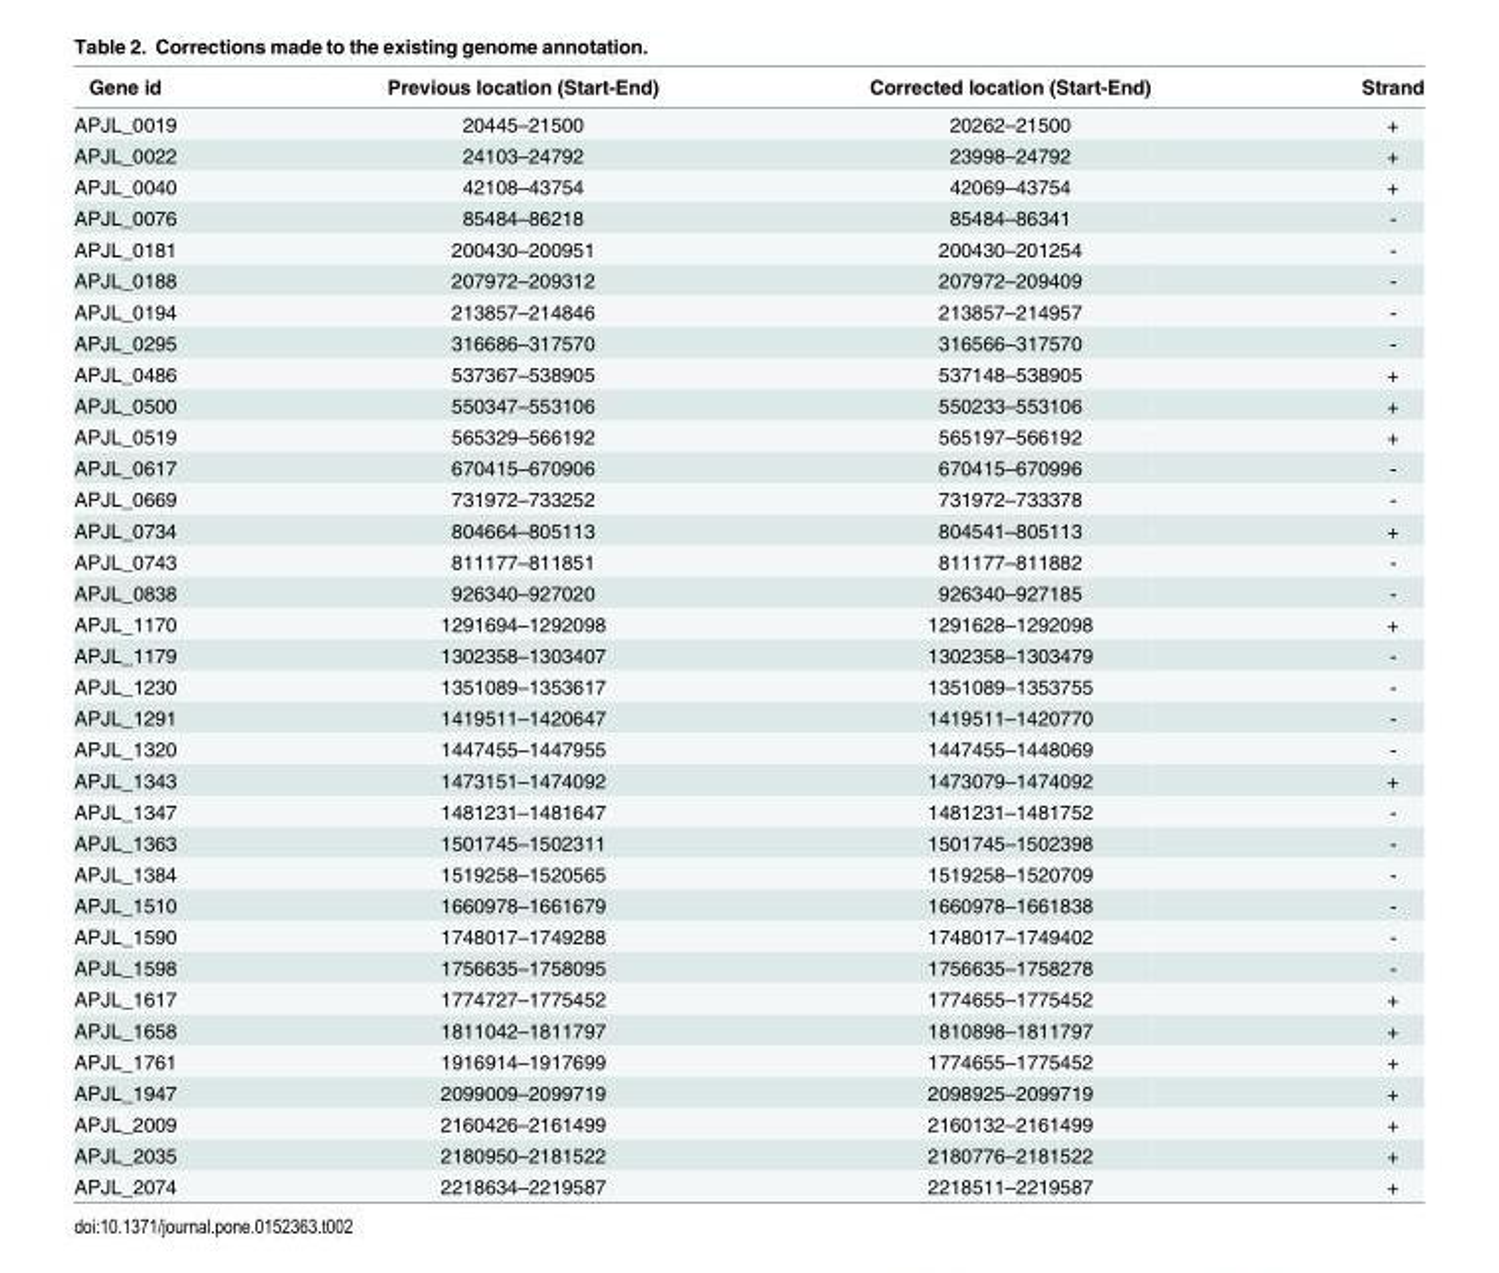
<table><thead><tr><td>Gene id</td><td>Previous location (Start-End)</td><td>Corrected location (Start-End)</td><td>Strand</td></tr></thead><tbody><tr><td>APJL_0019</td><td>20445–21500</td><td>20262–21500</td><td>+</td></tr><tr><td>APJL_0022</td><td>24103–24792</td><td>23998–24792</td><td>+</td></tr><tr><td>APJL_0040</td><td>42108–43754</td><td>42069–43754</td><td>+</td></tr><tr><td>APJL_0076</td><td>85484–86218</td><td>85484–86341</td><td>-</td></tr><tr><td>APJL_0181</td><td>200430–200951</td><td>200430–201254</td><td>-</td></tr><tr><td>APJL_0188</td><td>207972–209312</td><td>207972–209409</td><td>-</td></tr><tr><td>APJL_0194</td><td>213857–214846</td><td>213857–214957</td><td>-</td></tr><tr><td>APJL_0295</td><td>316686–317570</td><td>316566–317570</td><td>-</td></tr><tr><td>APJL_0486</td><td>537367–538905</td><td>537148–538905</td><td>+</td></tr><tr><td>APJL_0500</td><td>550347–553106</td><td>550233–553106</td><td>+</td></tr><tr><td>APJL_0519</td><td>565329–566192</td><td>565197–566192</td><td>+</td></tr><tr><td>APJL_0617</td><td>670415–670906</td><td>670415–670996</td><td>-</td></tr><tr><td>APJL_0669</td><td>731972–733252</td><td>731972–733378</td><td>-</td></tr><tr><td>APJL_0734</td><td>804664–805113</td><td>804541–805113</td><td>+</td></tr><tr><td>APJL_0743</td><td>811177–811851</td><td>811177–811882</td><td>-</td></tr><tr><td>APJL_0838</td><td>926340–927020</td><td>926340–927185</td><td>-</td></tr><tr><td>APJL_1170</td><td>1291694–1292098</td><td>1291628–1292098</td><td>+</td></tr><tr><td>APJL_1179</td><td>1302358–1303407</td><td>1302358–1303479</td><td>-</td></tr><tr><td>APJL_1230</td><td>1351089–1353617</td><td>1351089–1353755</td><td>-</td></tr><tr><td>APJL_1291</td><td>1419511–1420647</td><td>1419511–1420770</td><td>-</td></tr><tr><td>APJL_1320</td><td>1447455–1447955</td><td>1447455–1448069</td><td>-</td></tr><tr><td>APJL_1343</td><td>1473151–1474092</td><td>1473079–1474092</td><td>+</td></tr><tr><td>APJL_1347</td><td>1481231–1481647</td><td>1481231–1481752</td><td>-</td></tr><tr><td>APJL_1363</td><td>1501745–1502311</td><td>1501745–1502398</td><td>-</td></tr><tr><td>APJL_1384</td><td>1519258–1520565</td><td>1519258–1520709</td><td>-</td></tr><tr><td>APJL_1510</td><td>1660978–1661679</td><td>1660978–1661838</td><td>-</td></tr><tr><td>APJL_1590</td><td>1748017–1749288</td><td>1748017–1749402</td><td>-</td></tr><tr><td>APJL_1598</td><td>1756635–1758095</td><td>1756635–1758278</td><td>-</td></tr><tr><td>APJL_1617</td><td>1774727–1775452</td><td>1774655–1775452</td><td>+</td></tr><tr><td>APJL_1658</td><td>1811042–1811797</td><td>1810898–1811797</td><td>+</td></tr><tr><td>APJL_1761</td><td>1916914–1917699</td><td>1774655–1775452</td><td>+</td></tr><tr><td>APJL_1947</td><td>2099009–2099719</td><td>2098925–2099719</td><td>+</td></tr><tr><td>APJL_2009</td><td>2160426–2161499</td><td>2160132–2161499</td><td>+</td></tr><tr><td>APJL_2035</td><td>2180950–2181522</td><td>2180776–2181522</td><td>+</td></tr><tr><td>APJL_2074</td><td>2218634–2219587</td><td>2218511–2219587</td><td>+</td></tr></tbody></table>